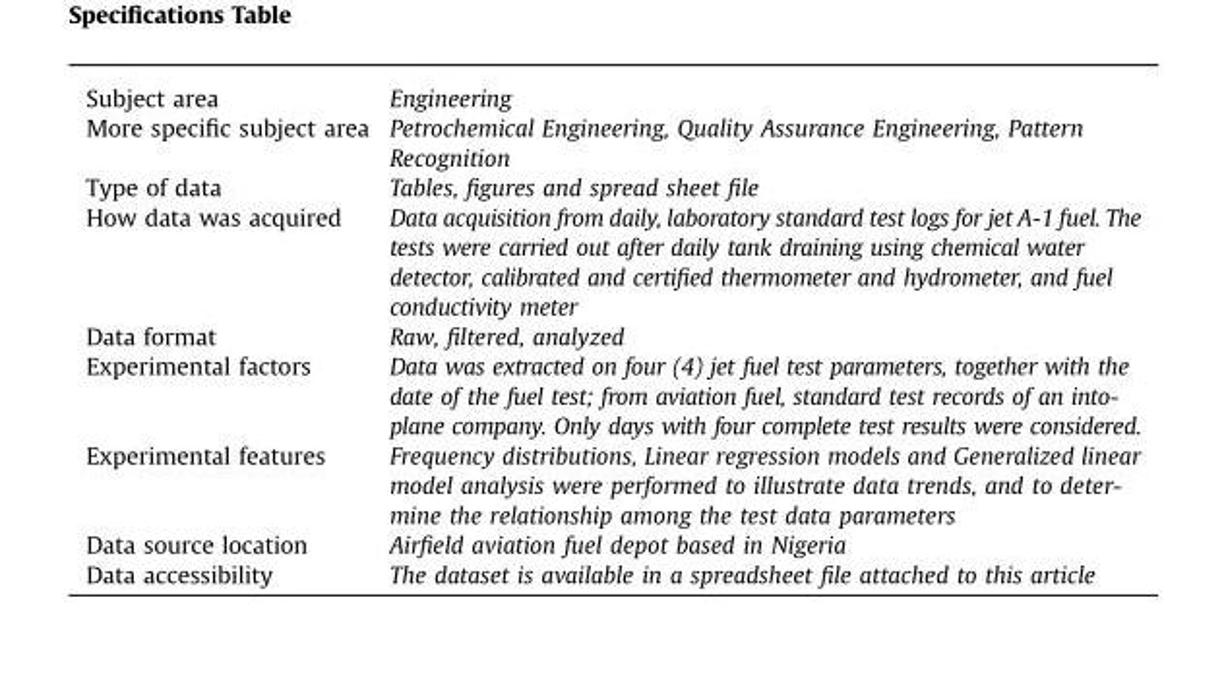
<table><tbody><tr><td>Subject area</td><td>Engineering</td></tr><tr><td>More specific subject area</td><td>Petrochemical Engineering, Quality Assurance Engineering, Pattern Recognition</td></tr><tr><td>Type of data</td><td>Tables, figures and spread sheet file</td></tr><tr><td>How data was acquired</td><td>Data acquisition from daily, laboratory standard test logs for jet A-1 fuel. The tests were carried out after daily tank draining using chemical water detector, calibrated and certified thermometer and hydrometer, and fuel conductivity meter</td></tr><tr><td>Data format</td><td>Raw, filtered, analyzed</td></tr><tr><td>Experimental factors</td><td>Data was extracted on four (4) jet fuel test parameters, together with the date of the fuel test; from aviation fuel, standard test records of an into- plane company. Only days with four complete test results were considered.</td></tr><tr><td>Experimental features</td><td>Frequency distributions, Linear regression models and Generalized linear model analysis were performed to illustrate data trends, and to deter- mine the relationship among the test data parameters</td></tr><tr><td>Data source location</td><td>Airfield aviation fuel depot based in Nigeria</td></tr><tr><td>Data accessibility</td><td>The dataset is available in a spreadsheet file attached to this article</td></tr></tbody></table>